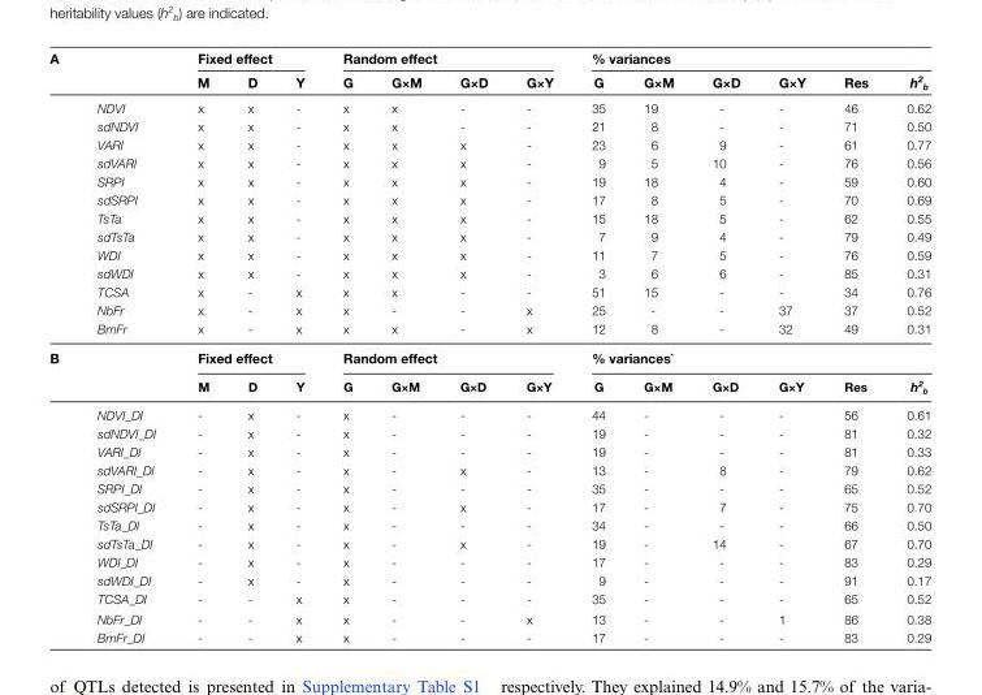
<table><thead><tr><td rowspan="2">A</td><td rowspan="2"></td><td colspan="3">Fixed effect</td><td colspan="4">Random effect</td><td colspan="6">% variances</td></tr><tr><td>M</td><td>D</td><td>Y</td><td>G</td><td>G×M</td><td>G×D</td><td>G×Y</td><td>G</td><td>G×M</td><td>G×D</td><td>G×Y</td><td>Res</td><td>h<sup>2</sup> <sub>b</sub></td></tr></thead><tbody><tr><td></td><td>NDVI</td><td>x</td><td>x</td><td>-</td><td>x</td><td>x</td><td>-</td><td>-</td><td>35</td><td>19</td><td>-</td><td>-</td><td>46</td><td>0.62</td></tr><tr><td></td><td>sdNDVI</td><td>x</td><td>x</td><td>-</td><td>x</td><td>x</td><td>-</td><td>-</td><td>21</td><td>8</td><td>-</td><td>-</td><td>71</td><td>0.50</td></tr><tr><td></td><td>VARI</td><td>x</td><td>x</td><td>-</td><td>x</td><td>x</td><td>x</td><td>-</td><td>23</td><td>6</td><td>9</td><td>-</td><td>61</td><td>0.77</td></tr><tr><td></td><td>sdVARI</td><td>x</td><td>x</td><td>-</td><td>x</td><td>x</td><td>x</td><td>-</td><td>9</td><td>5</td><td>10</td><td>-</td><td>76</td><td>0.56</td></tr><tr><td></td><td>SRPI</td><td>x</td><td>x</td><td>-</td><td>x</td><td>x</td><td>x</td><td>-</td><td>19</td><td>18</td><td>4</td><td>-</td><td>59</td><td>0.60</td></tr><tr><td></td><td>sdSRPI</td><td>x</td><td>x</td><td>-</td><td>x</td><td>x</td><td>x</td><td>-</td><td>17</td><td>8</td><td>5</td><td>-</td><td>70</td><td>0.69</td></tr><tr><td></td><td>TsTa</td><td>x</td><td>x</td><td>-</td><td>x</td><td>x</td><td>x</td><td>-</td><td>15</td><td>18</td><td>5</td><td>-</td><td>62</td><td>0.55</td></tr><tr><td></td><td>sdTsTa</td><td>x</td><td>x</td><td>-</td><td>x</td><td>x</td><td>x</td><td>-</td><td>7</td><td>9</td><td>4</td><td>-</td><td>79</td><td>0.49</td></tr><tr><td></td><td>WDI</td><td>x</td><td>x</td><td>-</td><td>x</td><td>x</td><td>x</td><td>-</td><td>11</td><td>7</td><td>5</td><td>-</td><td>76</td><td>0.59</td></tr><tr><td></td><td>sdWDI</td><td>x</td><td>x</td><td>-</td><td>x</td><td>x</td><td>x</td><td>-</td><td>3</td><td>6</td><td>6</td><td>-</td><td>85</td><td>0.31</td></tr><tr><td></td><td>TCSA</td><td>x</td><td>-</td><td>x</td><td>x</td><td>x</td><td>-</td><td>-</td><td>51</td><td>15</td><td>-</td><td>-</td><td>34</td><td>0.76</td></tr><tr><td></td><td>NbFr</td><td>x</td><td>-</td><td>x</td><td>x</td><td>-</td><td>-</td><td>x</td><td>25</td><td>-</td><td>-</td><td>37</td><td>37</td><td>0.52</td></tr><tr><td></td><td>BmFr</td><td>x</td><td>-</td><td>x</td><td>x</td><td>x</td><td>-</td><td>x</td><td>12</td><td>8</td><td>-</td><td>32</td><td>49</td><td>0.31</td></tr><tr><td rowspan="15">B</td><td></td><td colspan="3">Fixed effect</td><td colspan="4">Random effect</td><td colspan="6">% variances`</td></tr><tr><td></td><td>M</td><td>D</td><td>Y</td><td>G</td><td>G×M</td><td>G×D</td><td>G×Y</td><td>G</td><td>G×M</td><td>G×D</td><td>G×Y</td><td>Res</td><td>h<sup>2</sup> <sub>b</sub></td></tr><tr><td>NDVI_DI</td><td>-</td><td>x</td><td>-</td><td>x</td><td>-</td><td>-</td><td>-</td><td>44</td><td>-</td><td>-</td><td>-</td><td>56</td><td>0.61</td></tr><tr><td>sdNDVI_DI</td><td>-</td><td>x</td><td>-</td><td>x</td><td>-</td><td>-</td><td>-</td><td>19</td><td>-</td><td>-</td><td>-</td><td>81</td><td>0.32</td></tr><tr><td>VARI_DI</td><td>-</td><td>x</td><td>-</td><td>x</td><td>-</td><td>-</td><td>-</td><td>19</td><td>-</td><td>-</td><td>-</td><td>81</td><td>0.33</td></tr><tr><td>sdVARI_DI</td><td>-</td><td>x</td><td>-</td><td>x</td><td>-</td><td>x</td><td>-</td><td>13</td><td>-</td><td>8</td><td>-</td><td>79</td><td>0.62</td></tr><tr><td>SRPI_DI</td><td>-</td><td>x</td><td>-</td><td>x</td><td>-</td><td>-</td><td>-</td><td>35</td><td>-</td><td>-</td><td>-</td><td>65</td><td>0.52</td></tr><tr><td>sdSRPI_DI</td><td>-</td><td>x</td><td>-</td><td>x</td><td>-</td><td>x</td><td>-</td><td>17</td><td>-</td><td>7</td><td>-</td><td>75</td><td>0.70</td></tr><tr><td>TsTa_DI</td><td>-</td><td>x</td><td>-</td><td>x</td><td>-</td><td>-</td><td>-</td><td>34</td><td>-</td><td>-</td><td>-</td><td>66</td><td>0.50</td></tr><tr><td>sdTsTa_DI</td><td>-</td><td>x</td><td>-</td><td>x</td><td>-</td><td>x</td><td>-</td><td>19</td><td>-</td><td>14</td><td>-</td><td>67</td><td>0.70</td></tr><tr><td>WDI_DI</td><td>-</td><td>x</td><td>-</td><td>x</td><td>-</td><td>-</td><td>-</td><td>17</td><td>-</td><td>-</td><td>-</td><td>83</td><td>0.29</td></tr><tr><td>sdWDI_DI</td><td>-</td><td>x</td><td>-</td><td>x</td><td>-</td><td>-</td><td>-</td><td>9</td><td>-</td><td>-</td><td>-</td><td>91</td><td>0.17</td></tr><tr><td>TCSA_DI</td><td>-</td><td>-</td><td>x</td><td>x</td><td>-</td><td>-</td><td>-</td><td>35</td><td>-</td><td>-</td><td>-</td><td>65</td><td>0.52</td></tr><tr><td>NbFr_DI</td><td>-</td><td>-</td><td>x</td><td>x</td><td>-</td><td>-</td><td>x</td><td>13</td><td>-</td><td>-</td><td>1</td><td>86</td><td>0.38</td></tr><tr><td>BmFr_DI</td><td>-</td><td>-</td><td>x</td><td>x</td><td>-</td><td>-</td><td>-</td><td>17</td><td>-</td><td>-</td><td>-</td><td>83</td><td>0.29</td></tr></tbody></table>